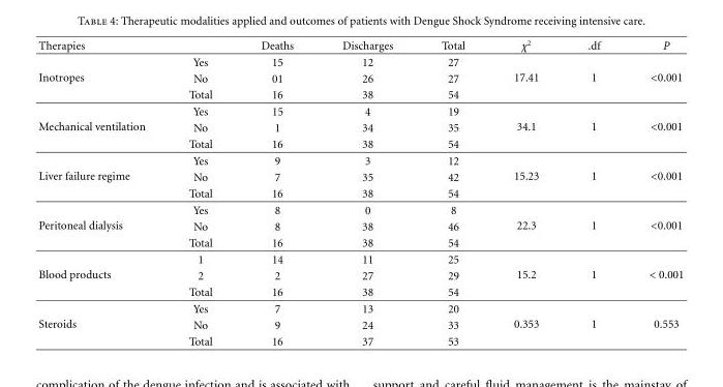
<table><thead><tr><td>Therapies</td><td></td><td>Deaths</td><td>Discharges</td><td>Total</td><td>χ<sup>2</sup></td><td>.df</td><td>P</td></tr></thead><tbody><tr><td rowspan="3">Inotropes</td><td>Yes</td><td>15</td><td>12</td><td>27</td><td rowspan="3">17.41</td><td rowspan="3">1</td><td rowspan="3">&lt;0.001</td></tr><tr><td>No</td><td>01</td><td>26</td><td>27</td></tr><tr><td>Total</td><td>16</td><td>38</td><td>54</td></tr><tr><td rowspan="3">Mechanical ventilation</td><td>Yes</td><td>15</td><td>4</td><td>19</td><td rowspan="3">34.1</td><td rowspan="3">1</td><td rowspan="3">&lt;0.001</td></tr><tr><td>No</td><td>1</td><td>34</td><td>35</td></tr><tr><td>Total</td><td>16</td><td>38</td><td>54</td></tr><tr><td rowspan="3">Liver failure regime</td><td>Yes</td><td>9</td><td>3</td><td>12</td><td rowspan="3">15.23</td><td rowspan="3">1</td><td rowspan="3">&lt;0.001</td></tr><tr><td>No</td><td>7</td><td>35</td><td>42</td></tr><tr><td>Total</td><td>16</td><td>38</td><td>54</td></tr><tr><td rowspan="3">Peritoneal dialysis</td><td>Yes</td><td>8</td><td>0</td><td>8</td><td rowspan="3">22.3</td><td rowspan="3">1</td><td rowspan="3">&lt;0.001</td></tr><tr><td>No</td><td>8</td><td>38</td><td>46</td></tr><tr><td>Total</td><td>16</td><td>38</td><td>54</td></tr><tr><td rowspan="3">Blood products</td><td>1</td><td>14</td><td>11</td><td>25</td><td rowspan="3">15.2</td><td rowspan="3">1</td><td rowspan="3">&lt; 0.001</td></tr><tr><td>2</td><td>2</td><td>27</td><td>29</td></tr><tr><td>Total</td><td>16</td><td>38</td><td>54</td></tr><tr><td rowspan="3">Steroids</td><td>Yes</td><td>7</td><td>13</td><td>20</td><td rowspan="3">0.353</td><td rowspan="3">1</td><td rowspan="3">0.553</td></tr><tr><td>No</td><td>9</td><td>24</td><td>33</td></tr><tr><td>Total</td><td>16</td><td>37</td><td>53</td></tr></tbody></table>